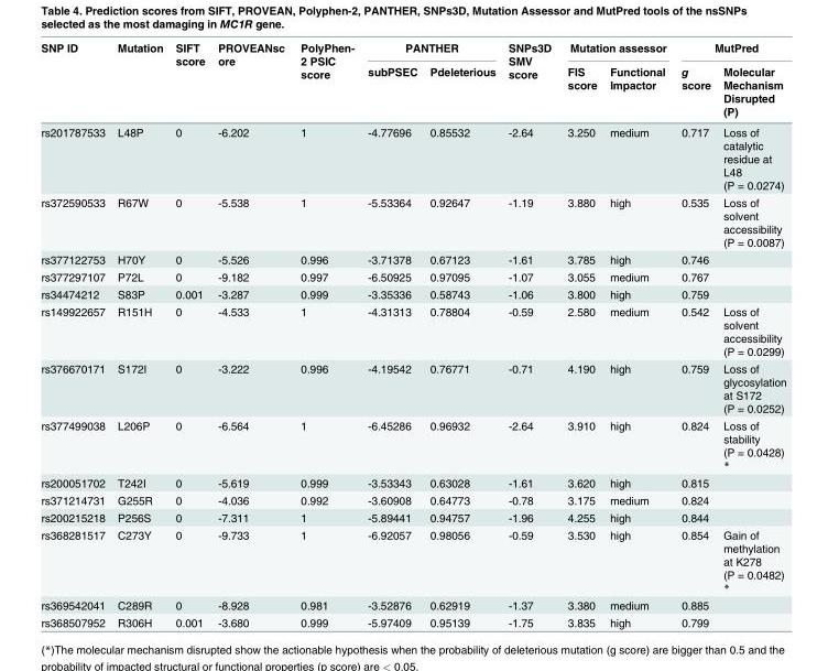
<table><thead><tr><td rowspan="2">SNP ID</td><td rowspan="2">Mutation</td><td rowspan="2">SIFT score</td><td rowspan="2">PROVEANsc ore</td><td rowspan="2">PolyPhen- 2 PSIC score</td><td colspan="2">PANTHER</td><td rowspan="2">SNPs3D SMV score</td><td colspan="2">Mutation assessor</td><td colspan="2">MutPred</td></tr><tr><td>subPSEC</td><td>Pdeleterious</td><td>FIS score</td><td>Functional Impactor</td><td>g score</td><td>Molecular Mechanism Disrupted (P)</td></tr></thead><tbody><tr><td>rs201787533</td><td>L48P</td><td>0</td><td>-6.202</td><td>1</td><td>-4.77696</td><td>0.85532</td><td>-2.64</td><td>3.250</td><td>medium</td><td>0.717</td><td>Loss of catalytic residue at L48 (P = 0.0274)</td></tr><tr><td>rs372590533</td><td>R67W</td><td>0</td><td>-5.538</td><td>1</td><td>-5.53364</td><td>0.92647</td><td>-1.19</td><td>3.880</td><td>high</td><td>0.535</td><td>Loss of solvent accessibility (P = 0.0087)</td></tr><tr><td>rs377122753</td><td>H70Y</td><td>0</td><td>-5.526</td><td>0.996</td><td>-3.71378</td><td>0.67123</td><td>-1.61</td><td>3.785</td><td>high</td><td>0.746</td><td></td></tr><tr><td>rs377297107</td><td>P72L</td><td>0</td><td>-9.182</td><td>0.997</td><td>-6.50925</td><td>0.97095</td><td>-1.07</td><td>3.055</td><td>medium</td><td>0.767</td><td></td></tr><tr><td>rs34474212</td><td>S83P</td><td>0.001</td><td>-3.287</td><td>0.999</td><td>-3.35336</td><td>0.58743</td><td>-1.06</td><td>3.800</td><td>high</td><td>0.759</td><td></td></tr><tr><td>rs149922657</td><td>R151H</td><td>0</td><td>-4.533</td><td>1</td><td>-4.31313</td><td>0.78804</td><td>-0.59</td><td>2.580</td><td>medium</td><td>0.542</td><td>Loss of solvent accessibility (P = 0.0299)</td></tr><tr><td>rs376670171</td><td>S172I</td><td>0</td><td>-3.222</td><td>0.996</td><td>-4.19542</td><td>0.76771</td><td>-0.71</td><td>4.190</td><td>high</td><td>0.759</td><td>Loss of glycosylation at S172 (P = 0.0252)</td></tr><tr><td>rs377499038</td><td>L206P</td><td>0</td><td>-6.564</td><td>1</td><td>-6.45286</td><td>0.96932</td><td>-2.64</td><td>3.910</td><td>high</td><td>0.824</td><td>Loss of stability (P = 0.0428) *</td></tr><tr><td>rs200051702</td><td>T242I</td><td>0</td><td>-5.619</td><td>0.999</td><td>-3.53343</td><td>0.63028</td><td>-1.61</td><td>3.620</td><td>high</td><td>0.815</td><td></td></tr><tr><td>rs371214731</td><td>G255R</td><td>0</td><td>-4.036</td><td>0.992</td><td>-3.60908</td><td>0.64773</td><td>-0.78</td><td>3.175</td><td>medium</td><td>0.824</td><td></td></tr><tr><td>rs200215218</td><td>P256S</td><td>0</td><td>-7.311</td><td>1</td><td>-5.89441</td><td>0.94757</td><td>-1.96</td><td>4.255</td><td>high</td><td>0.844</td><td></td></tr><tr><td>rs368281517</td><td>C273Y</td><td>0</td><td>-9.733</td><td>1</td><td>-6.92057</td><td>0.98056</td><td>-0.59</td><td>3.530</td><td>high</td><td>0.854</td><td>Gain of methylation at K278 (P = 0.0482) *</td></tr><tr><td>rs369542041</td><td>C289R</td><td>0</td><td>-8.928</td><td>0.981</td><td>-3.52876</td><td>0.62919</td><td>-1.37</td><td>3.380</td><td>medium</td><td>0.885</td><td></td></tr><tr><td>rs368507952</td><td>R306H</td><td>0.001</td><td>-3.680</td><td>0.999</td><td>-5.97409</td><td>0.95139</td><td>-1.75</td><td>3.835</td><td>high</td><td>0.799</td><td></td></tr></tbody></table>